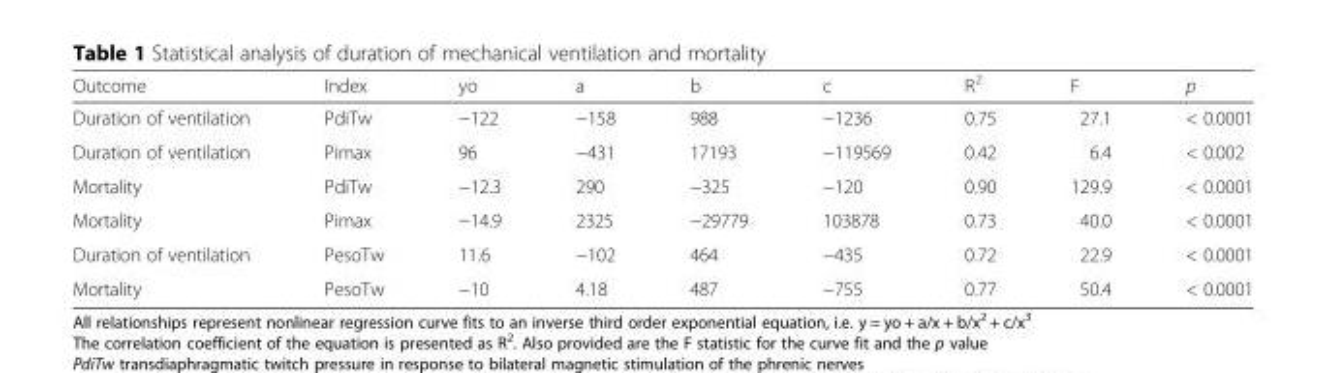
<table><thead><tr><td>Outcome</td><td>Index</td><td>yo</td><td>a</td><td>b</td><td>c</td><td>R<sup>2</sup></td><td>F</td><td>p</td></tr></thead><tbody><tr><td>Duration of ventilation</td><td>PdiTw</td><td>−122</td><td>−158</td><td>988</td><td>−1236</td><td>0.75</td><td>27.1</td><td>&lt; 0.0001</td></tr><tr><td>Duration of ventilation</td><td>Pimax</td><td>96</td><td>−431</td><td>17193</td><td>−119569</td><td>0.42</td><td>6.4</td><td>&lt; 0.002</td></tr><tr><td>Mortality</td><td>PdiTw</td><td>−12.3</td><td>290</td><td>−325</td><td>−120</td><td>0.90</td><td>129.9</td><td>&lt; 0.0001</td></tr><tr><td>Mortality</td><td>Pimax</td><td>−14.9</td><td>2325</td><td>−29779</td><td>103878</td><td>0.73</td><td>40.0</td><td>&lt; 0.0001</td></tr><tr><td>Duration of ventilation</td><td>PesoTw</td><td>11.6</td><td>−102</td><td>464</td><td>−435</td><td>0.72</td><td>22.9</td><td>&lt; 0.0001</td></tr><tr><td>Mortality</td><td>PesoTw</td><td>−10</td><td>4.18</td><td>487</td><td>−755</td><td>0.77</td><td>50.4</td><td>&lt; 0.0001</td></tr></tbody></table>